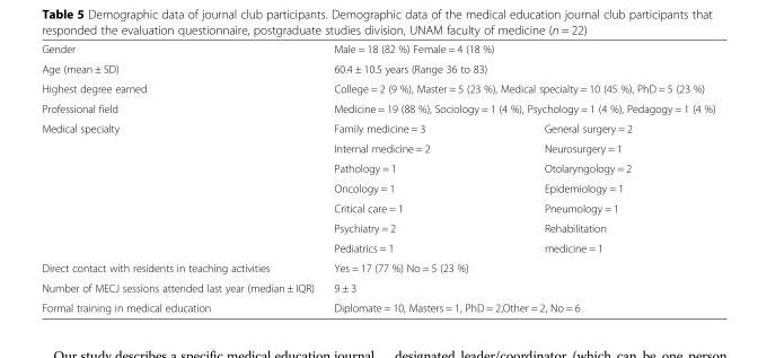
<table><tbody><tr><td>Gender</td><td colspan="2">Male = 18 (82 %) Female = 4 (18 %)</td></tr><tr><td>Age (mean ± SD)</td><td colspan="2">60.4 ± 10.5 years (Range 36 to 83)</td></tr><tr><td>Highest degree earned</td><td colspan="2">College = 2 (9 %), Master = 5 (23 %), Medical specialty = 10 (45 %), PhD = 5 (23 %)</td></tr><tr><td>Professional field</td><td colspan="2">Medicine = 19 (88 %), Sociology = 1 (4 %), Psychology = 1 (4 %), Pedagogy = 1 (4 %)</td></tr><tr><td rowspan="7">Medical specialty</td><td>Family medicine = 3</td><td>General surgery = 2</td></tr><tr><td>Internal medicine = 2</td><td>Neurosurgery = 1</td></tr><tr><td>Pathology = 1</td><td>Otolaryngology = 2</td></tr><tr><td>Oncology = 1</td><td>Epidemiology = 1</td></tr><tr><td>Critical care = 1</td><td>Pneumology = 1</td></tr><tr><td>Psychiatry = 2</td><td>Rehabilitation</td></tr><tr><td>Pediatrics = 1</td><td>medicine = 1</td></tr><tr><td>Direct contact with residents in teaching activities</td><td colspan="2">Yes = 17 (77 %) No = 5 (23 %)</td></tr><tr><td>Number of MECJ sessions attended last year (median ± IQR)</td><td colspan="2">9 ± 3</td></tr><tr><td>Formal training in medical education</td><td colspan="2">Diplomate = 10, Masters = 1, PhD = 2,Other = 2, No = 6</td></tr></tbody></table>